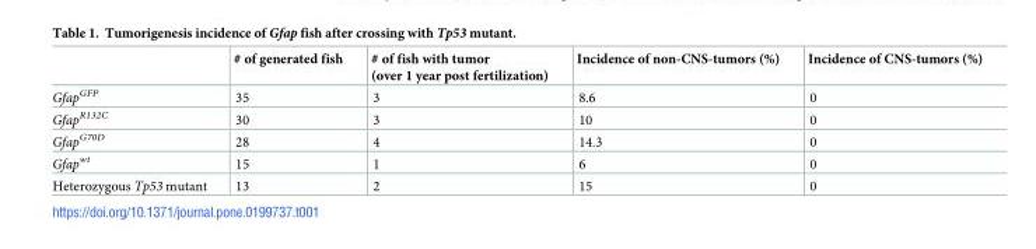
<table><thead><tr><td></td><td># of generated fish</td><td># of fish with tumor (over 1 year post fertilization)</td><td>Incidence of non-CNS-tumors (%)</td><td>Incidence of CNS-tumors (%)</td></tr></thead><tbody><tr><td>Gfap<sup>GFP</sup></td><td>35</td><td>3</td><td>8.6</td><td>0</td></tr><tr><td>Gfap<sup>R132C</sup></td><td>30</td><td>3</td><td>10</td><td>0</td></tr><tr><td>Gfap<sup>G70D</sup></td><td>28</td><td>4</td><td>14.3</td><td>0</td></tr><tr><td>Gfap<sup>wt</sup></td><td>15</td><td>1</td><td>6</td><td>0</td></tr><tr><td>Heterozygous Tp53 mutant</td><td>13</td><td>2</td><td>15</td><td>0</td></tr></tbody></table>